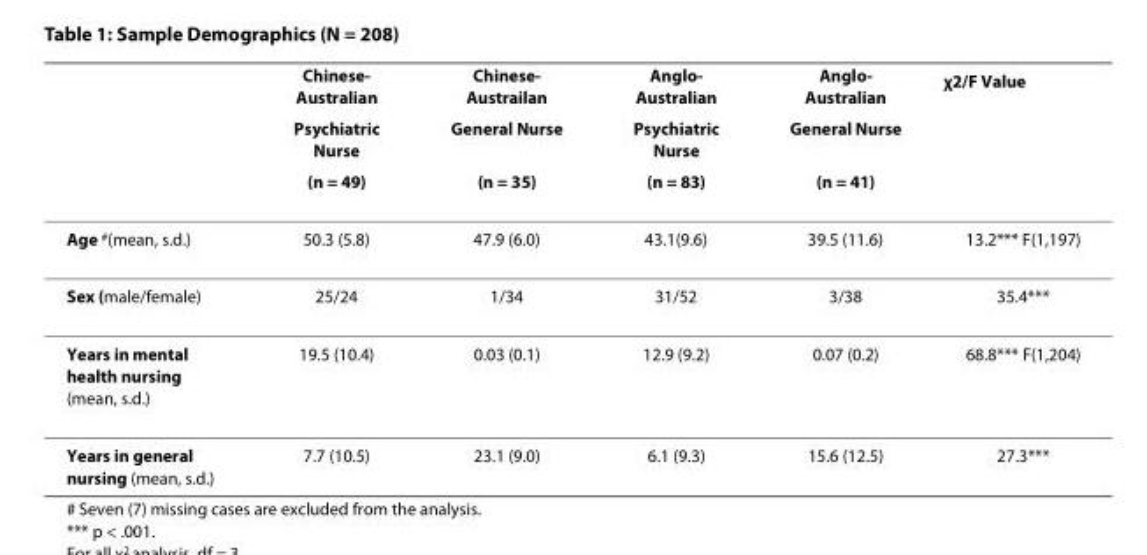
<table><thead><tr><td rowspan="3"></td><td rowspan="3">Chinese- Australian Psychiatric Nurse (n = 49)</td><td rowspan="3">Chinese- Austrailan General Nurse (n = 35)</td><td rowspan="3">Anglo- Australian Psychiatric Nurse (n = 83)</td><td rowspan="3">Anglo- Australian General Nurse (n = 41)</td><td rowspan="3">χ<sup>2</sup>/F Value</td></tr><tr></tr><tr></tr></thead><tbody><tr><td>Age <sup>#</sup>(mean, s.d.)</td><td>50.3 (5.8)</td><td>47.9 (6.0)</td><td>43.1(9.6)</td><td>39.5 (11.6)</td><td>13.2*** F(1,197)</td></tr><tr><td>Sex (male/female)</td><td>25/24</td><td>1/34</td><td>31/52</td><td>3/38</td><td>35.4***</td></tr><tr><td>Years in mental health nursing (mean, s.d.)</td><td>19.5 (10.4)</td><td>0.03 (0.1)</td><td>12.9 (9.2)</td><td>0.07 (0.2)</td><td>68.8*** F(1,204)</td></tr><tr><td>Years in general nursing (mean, s.d.)</td><td>7.7 (10.5)</td><td>23.1 (9.0)</td><td>6.1 (9.3)</td><td>15.6 (12.5)</td><td>27.3***</td></tr></tbody></table>